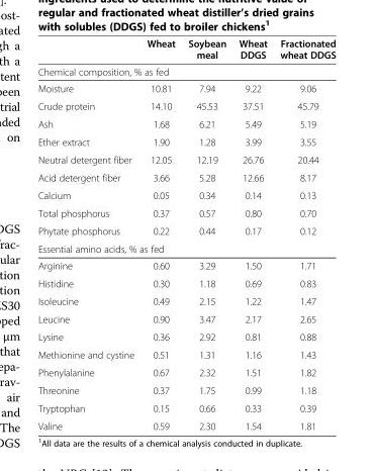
<table><thead><tr><td></td><td>Wheat</td><td>Soybean meal</td><td>Wheat DDGS</td><td>Fractionated wheat DDGS</td></tr></thead><tbody><tr><td colspan="5">Chemical composition, % as fed</td></tr><tr><td>Moisture</td><td>10.81</td><td>7.94</td><td>9.22</td><td>9.06</td></tr><tr><td>Crude protein</td><td>14.10</td><td>45.53</td><td>37.51</td><td>45.79</td></tr><tr><td>Ash</td><td>1.68</td><td>6.21</td><td>5.49</td><td>5.19</td></tr><tr><td>Ether extract</td><td>1.90</td><td>1.28</td><td>3.99</td><td>3.55</td></tr><tr><td>Neutral detergent fiber</td><td>12.05</td><td>12.19</td><td>26.76</td><td>20.44</td></tr><tr><td>Acid detergent fiber</td><td>3.66</td><td>5.28</td><td>12.66</td><td>8.17</td></tr><tr><td>Calcium</td><td>0.05</td><td>0.34</td><td>0.14</td><td>0.13</td></tr><tr><td>Total phosphorus</td><td>0.37</td><td>0.57</td><td>0.80</td><td>0.70</td></tr><tr><td>Phytate phosphorus</td><td>0.22</td><td>0.44</td><td>0.17</td><td>0.12</td></tr><tr><td colspan="5">Essential amino acids, % as fed</td></tr><tr><td>Arginine</td><td>0.60</td><td>3.29</td><td>1.50</td><td>1.71</td></tr><tr><td>Histidine</td><td>0.30</td><td>1.18</td><td>0.69</td><td>0.83</td></tr><tr><td>Isoleucine</td><td>0.49</td><td>2.15</td><td>1.22</td><td>1.47</td></tr><tr><td>Leucine</td><td>0.90</td><td>3.47</td><td>2.17</td><td>2.65</td></tr><tr><td>Lysine</td><td>0.36</td><td>2.92</td><td>0.81</td><td>0.88</td></tr><tr><td>Methionine and cystine</td><td>0.51</td><td>1.31</td><td>1.16</td><td>1.43</td></tr><tr><td>Phenylalanine</td><td>0.67</td><td>2.32</td><td>1.51</td><td>1.82</td></tr><tr><td>Threonine</td><td>0.37</td><td>1.75</td><td>0.99</td><td>1.18</td></tr><tr><td>Tryptophan</td><td>0.15</td><td>0.66</td><td>0.33</td><td>0.39</td></tr><tr><td>Valine</td><td>0.59</td><td>2.30</td><td>1.54</td><td>1.81</td></tr></tbody></table>